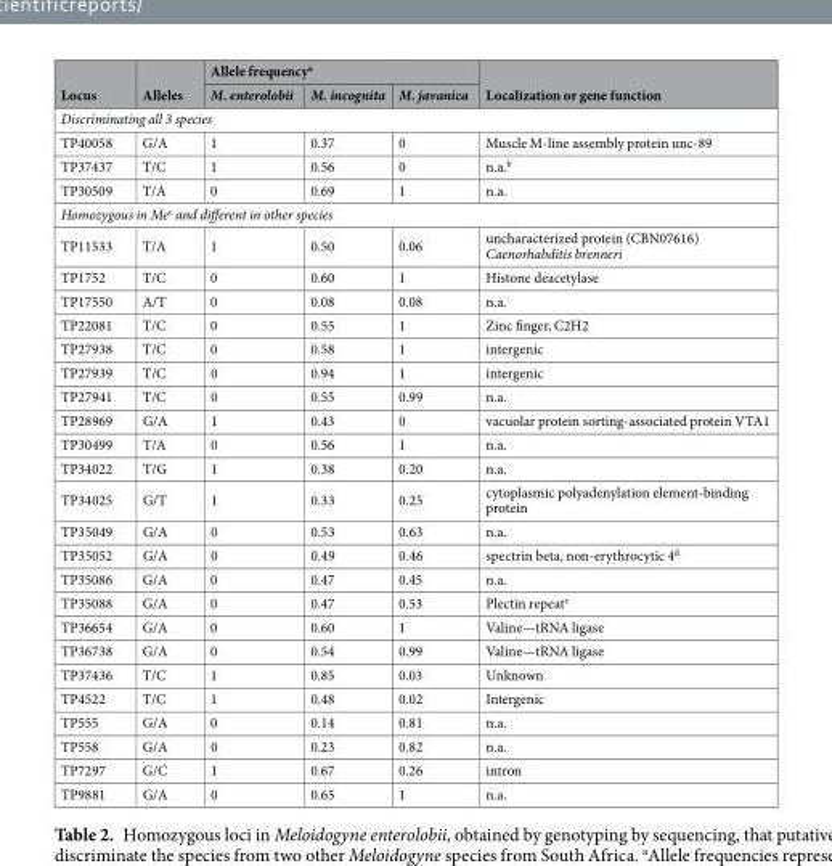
<table><thead><tr><td rowspan="2">Locus</td><td rowspan="2">Alleles</td><td colspan="3">Allele frequency<sup>a</sup></td><td rowspan="2">Localization or gene function</td></tr><tr><td>M. enterolobii</td><td>M. incognita</td><td>M. javanica</td></tr></thead><tbody><tr><td colspan="6">Discriminating all 3 species</td></tr><tr><td>TP40058</td><td>G/A</td><td>1</td><td>0.37</td><td>0</td><td>Muscle M-line assembly protein unc-89</td></tr><tr><td>TP37437</td><td>T/C</td><td>1</td><td>0.56</td><td>0</td><td>n.a.<sup>b</sup></td></tr><tr><td>TP30509</td><td>T/A</td><td>0</td><td>0.69</td><td>1</td><td>n.a.</td></tr><tr><td colspan="6">Homozygous in Me<sup>c</sup> and different in other species</td></tr><tr><td>TP11533</td><td>T/A</td><td>1</td><td>0.50</td><td>0.06</td><td>uncharacterized protein (CBN07616) Caenorhabditis brenneri</td></tr><tr><td>TP1752</td><td>T/C</td><td>0</td><td>0.60</td><td>1</td><td>Histone deacetylase</td></tr><tr><td>TP17550</td><td>A/T</td><td>0</td><td>0.08</td><td>0.08</td><td>n.a.</td></tr><tr><td>TP22081</td><td>T/C</td><td>0</td><td>0.55</td><td>1</td><td>Zinc finger, C2H2</td></tr><tr><td>TP27938</td><td>T/C</td><td>0</td><td>0.58</td><td>1</td><td>intergenic</td></tr><tr><td>TP27939</td><td>T/C</td><td>0</td><td>0.94</td><td>1</td><td>intergenic</td></tr><tr><td>TP27941</td><td>T/C</td><td>0</td><td>0.55</td><td>0.99</td><td>n.a.</td></tr><tr><td>TP28969</td><td>G/A</td><td>1</td><td>0.43</td><td>0</td><td>vacuolar protein sorting-associated protein VTA1</td></tr><tr><td>TP30499</td><td>T/A</td><td>0</td><td>0.56</td><td>1</td><td>n.a.</td></tr><tr><td>TP34022</td><td>T/G</td><td>1</td><td>0.38</td><td>0.20</td><td>n.a.</td></tr><tr><td>TP34025</td><td>G/T</td><td>1</td><td>0.33</td><td>0.25</td><td>cytoplasmic polyadenylation element-binding protein</td></tr><tr><td>TP35049</td><td>G/A</td><td>0</td><td>0.53</td><td>0.63</td><td>n.a.</td></tr><tr><td>TP35052</td><td>G/A</td><td>0</td><td>0.49</td><td>0.46</td><td>spectrin beta, non-erythrocytic 4<sup>d</sup></td></tr><tr><td>TP35086</td><td>G/A</td><td>0</td><td>0.47</td><td>0.45</td><td>n.a.</td></tr><tr><td>TP35088</td><td>G/A</td><td>0</td><td>0.47</td><td>0.53</td><td>Plectin repeat<sup>e</sup></td></tr><tr><td>TP36654</td><td>G/A</td><td>0</td><td>0.60</td><td>1</td><td>Valine—tRNA ligase</td></tr><tr><td>TP36738</td><td>G/A</td><td>0</td><td>0.54</td><td>0.99</td><td>Valine—tRNA ligase</td></tr><tr><td>TP37436</td><td>T/C</td><td>1</td><td>0.85</td><td>0.03</td><td>Unknown</td></tr><tr><td>TP4522</td><td>T/C</td><td>1</td><td>0.48</td><td>0.02</td><td>Intergenic</td></tr><tr><td>TP555</td><td>G/A</td><td>0</td><td>0.14</td><td>0.81</td><td>n.a.</td></tr><tr><td>TP558</td><td>G/A</td><td>0</td><td>0.23</td><td>0.82</td><td>n.a.</td></tr><tr><td>TP7297</td><td>G/C</td><td>1</td><td>0.67</td><td>0.26</td><td>intron</td></tr><tr><td>TP9881</td><td>G/A</td><td>0</td><td>0.65</td><td>1</td><td>n.a.</td></tr></tbody></table>